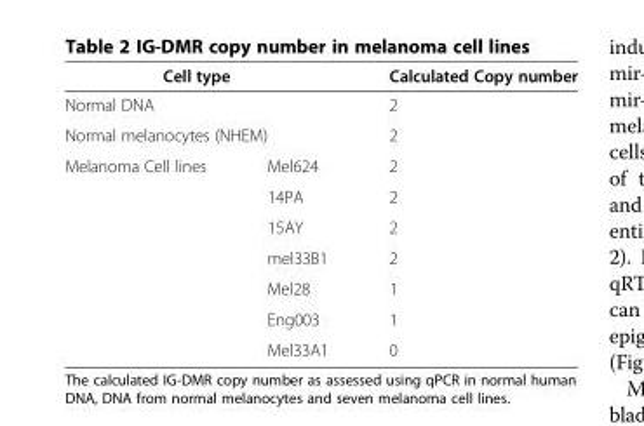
<table><thead><tr><td rowspan="3" colspan="2">Cell type Normal DNA Normal melanocytes (NHEM)</td><td rowspan="4">Calculated Copy number 2 2 2</td></tr><tr></tr><tr></tr><tr><td>Melanoma Cell lines</td><td>Mel624</td></tr></thead><tbody><tr><td></td><td>14PA</td><td>2</td></tr><tr><td></td><td>15AY</td><td>2</td></tr><tr><td></td><td>mel33B1</td><td>2</td></tr><tr><td></td><td>Mel28</td><td>1</td></tr><tr><td></td><td>Eng003</td><td>1</td></tr><tr><td></td><td>Mel33A1</td><td>0</td></tr></tbody></table>